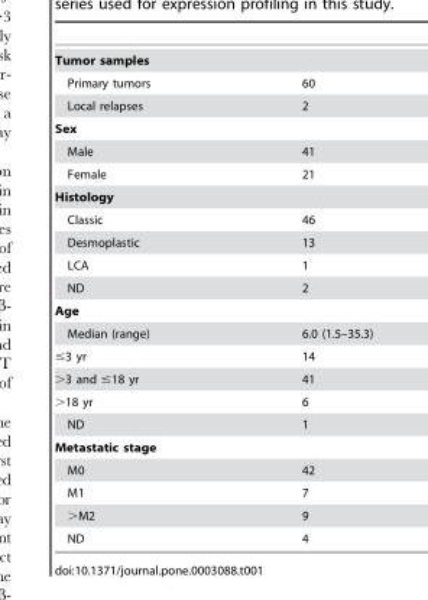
<table><tbody><tr><td colspan="2">Tumor samples</td></tr><tr><td>Primary tumors</td><td>60</td></tr><tr><td>Local relapses</td><td>2</td></tr><tr><td colspan="2">Sex</td></tr><tr><td>Male</td><td>41</td></tr><tr><td>Female</td><td>21</td></tr><tr><td colspan="2">Histology</td></tr><tr><td>Classic</td><td>46</td></tr><tr><td>Desmoplastic</td><td>13</td></tr><tr><td>LCA</td><td>1</td></tr><tr><td>ND</td><td>2</td></tr><tr><td colspan="2">Age</td></tr><tr><td>Median (range)</td><td>6.0 (1.5–35.3)</td></tr><tr><td>≤3 yr</td><td>14</td></tr><tr><td>&gt;3 and ≤18 yr</td><td>41</td></tr><tr><td>&gt;18 yr</td><td>6</td></tr><tr><td>ND</td><td>1</td></tr><tr><td colspan="2">Metastatic stage</td></tr><tr><td>M0</td><td>42</td></tr><tr><td>M1</td><td>7</td></tr><tr><td>&gt;M2</td><td>9</td></tr><tr><td>ND</td><td>4</td></tr></tbody></table>